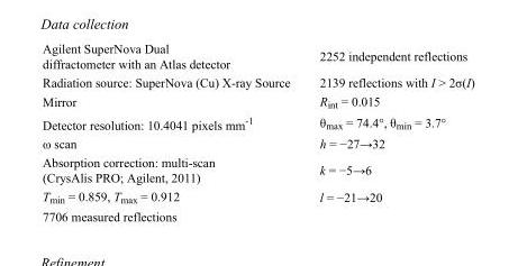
<table><tbody><tr><td>Agilent SuperNova Dual diffractometer with an Atlas detector</td><td>2252 independent reflections</td></tr><tr><td>Radiation source: SuperNova (Cu) X-ray Source</td><td>2139 reflections with I &gt; 2σ(I)</td></tr><tr><td>Mirror</td><td>R<sub>int</sub> = 0.015</td></tr><tr><td>Detector resolution: 10.4041 pixels mm<sup>-1</sup></td><td>θ<sub>max</sub> = 74.4°, θ<sub>min</sub> = 3.7°</td></tr><tr><td>ω scan</td><td>h = −27→32</td></tr><tr><td>Absorption correction: multi-scan (CrysAlis PRO; Agilent, 2011)</td><td>k = −5→6</td></tr><tr><td>T<sub>min</sub> = 0.859, T<sub>max</sub> = 0.912</td><td>l = −21→20</td></tr><tr><td>7706 measured reflections</td><td></td></tr></tbody></table>